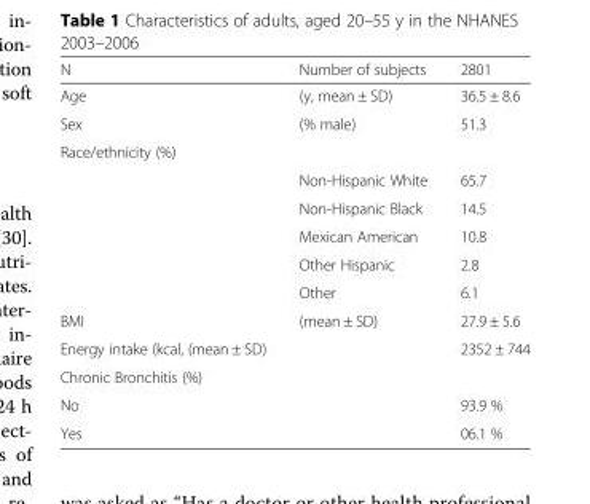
<table><thead><tr><td>N</td><td>Number of subjects</td><td>2801</td></tr></thead><tbody><tr><td>Age</td><td>(y, mean ± SD)</td><td>36.5 ± 8.6</td></tr><tr><td>Sex</td><td>(% male)</td><td>51.3</td></tr><tr><td colspan="3">Race/ethnicity (%)</td></tr><tr><td></td><td>Non-Hispanic White</td><td>65.7</td></tr><tr><td></td><td>Non-Hispanic Black</td><td>14.5</td></tr><tr><td></td><td>Mexican American</td><td>10.8</td></tr><tr><td></td><td>Other Hispanic</td><td>2.8</td></tr><tr><td></td><td>Other</td><td>6.1</td></tr><tr><td>BMI</td><td>(mean ± SD)</td><td>27.9 ± 5.6</td></tr><tr><td>Energy intake (kcal, (mean ± SD)</td><td></td><td>2352 ± 744</td></tr><tr><td colspan="3">Chronic Bronchitis (%)</td></tr><tr><td>No</td><td></td><td>93.9 %</td></tr><tr><td>Yes</td><td></td><td>06.1 %</td></tr></tbody></table>